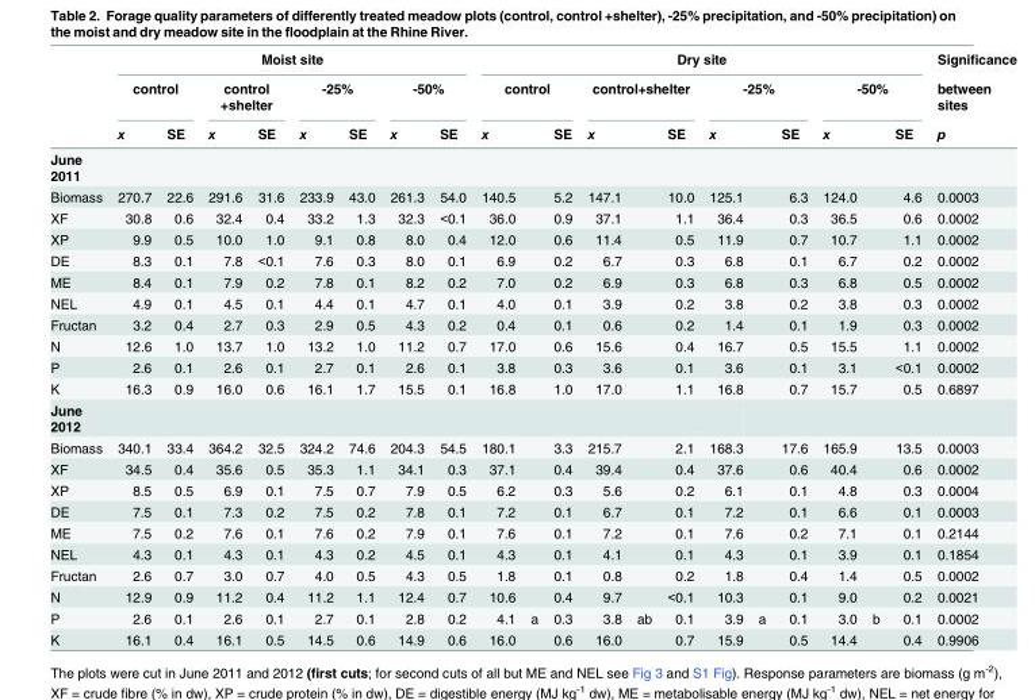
<table><thead><tr><td rowspan="3"></td><td colspan="8">Moist site</td><td colspan="12">Dry site</td><td rowspan="3">Significance between sites p</td></tr><tr><td colspan="2">control</td><td colspan="2">control +shelter</td><td colspan="2">-25%</td><td colspan="2">-50%</td><td colspan="3">control</td><td colspan="3">control+shelter</td><td colspan="3">-25%</td><td colspan="3">-50%</td></tr><tr><td>x</td><td>SE</td><td>x</td><td>SE</td><td>x</td><td>SE</td><td>x</td><td>SE</td><td>x</td><td></td><td>SE</td><td>x</td><td></td><td>SE</td><td>x</td><td></td><td>SE</td><td>x</td><td></td><td>SE</td></tr></thead><tbody><tr><td colspan="22">June 2011</td></tr><tr><td>Biomass</td><td>270.7</td><td>22.6</td><td>291.6</td><td>31.6</td><td>233.9</td><td>43.0</td><td>261.3</td><td>54.0</td><td>140.5</td><td></td><td>5.2</td><td>147.1</td><td></td><td>10.0</td><td>125.1</td><td></td><td>6.3</td><td>124.0</td><td></td><td>4.6</td><td>0.0003</td></tr><tr><td>XF</td><td>30.8</td><td>0.6</td><td>32.4</td><td>0.4</td><td>33.2</td><td>1.3</td><td>32.3</td><td>&lt;0.1</td><td>36.0</td><td></td><td>0.9</td><td>37.1</td><td></td><td>1.1</td><td>36.4</td><td></td><td>0.3</td><td>36.5</td><td></td><td>0.6</td><td>0.0002</td></tr><tr><td>XP</td><td>9.9</td><td>0.5</td><td>10.0</td><td>1.0</td><td>9.1</td><td>0.8</td><td>8.0</td><td>0.4</td><td>12.0</td><td></td><td>0.6</td><td>11.4</td><td></td><td>0.5</td><td>11.9</td><td></td><td>0.7</td><td>10.7</td><td></td><td>1.1</td><td>0.0002</td></tr><tr><td>DE</td><td>8.3</td><td>0.1</td><td>7.8</td><td>&lt;0.1</td><td>7.6</td><td>0.3</td><td>8.0</td><td>0.1</td><td>6.9</td><td></td><td>0.2</td><td>6.7</td><td></td><td>0.3</td><td>6.8</td><td></td><td>0.1</td><td>6.7</td><td></td><td>0.2</td><td>0.0002</td></tr><tr><td>ME</td><td>8.4</td><td>0.1</td><td>7.9</td><td>0.2</td><td>7.8</td><td>0.1</td><td>8.2</td><td>0.2</td><td>7.0</td><td></td><td>0.2</td><td>6.9</td><td></td><td>0.3</td><td>6.8</td><td></td><td>0.3</td><td>6.8</td><td></td><td>0.5</td><td>0.0002</td></tr><tr><td>NEL</td><td>4.9</td><td>0.1</td><td>4.5</td><td>0.1</td><td>4.4</td><td>0.1</td><td>4.7</td><td>0.1</td><td>4.0</td><td></td><td>0.1</td><td>3.9</td><td></td><td>0.2</td><td>3.8</td><td></td><td>0.2</td><td>3.8</td><td></td><td>0.3</td><td>0.0002</td></tr><tr><td>Fructan</td><td>3.2</td><td>0.4</td><td>2.7</td><td>0.3</td><td>2.9</td><td>0.5</td><td>4.3</td><td>0.2</td><td>0.4</td><td></td><td>0.1</td><td>0.6</td><td></td><td>0.2</td><td>1.4</td><td></td><td>0.1</td><td>1.9</td><td></td><td>0.3</td><td>0.0002</td></tr><tr><td>N</td><td>12.6</td><td>1.0</td><td>13.7</td><td>1.0</td><td>13.2</td><td>1.0</td><td>11.2</td><td>0.7</td><td>17.0</td><td></td><td>0.6</td><td>15.6</td><td></td><td>0.4</td><td>16.7</td><td></td><td>0.5</td><td>15.5</td><td></td><td>1.1</td><td>0.0002</td></tr><tr><td>P</td><td>2.6</td><td>0.1</td><td>2.6</td><td>0.1</td><td>2.7</td><td>0.1</td><td>2.6</td><td>0.1</td><td>3.8</td><td></td><td>0.3</td><td>3.6</td><td></td><td>0.1</td><td>3.6</td><td></td><td>0.1</td><td>3.1</td><td></td><td>&lt;0.1</td><td>0.0002</td></tr><tr><td>K</td><td>16.3</td><td>0.9</td><td>16.0</td><td>0.6</td><td>16.1</td><td>1.7</td><td>15.5</td><td>0.1</td><td>16.8</td><td></td><td>1.0</td><td>17.0</td><td></td><td>1.1</td><td>16.8</td><td></td><td>0.7</td><td>15.7</td><td></td><td>0.5</td><td>0.6897</td></tr><tr><td colspan="22">June 2012</td></tr><tr><td>Biomass</td><td>340.1</td><td>33.4</td><td>364.2</td><td>32.5</td><td>324.2</td><td>74.6</td><td>204.3</td><td>54.5</td><td>180.1</td><td></td><td>3.3</td><td>215.7</td><td></td><td>2.1</td><td>168.3</td><td></td><td>17.6</td><td>165.9</td><td></td><td>13.5</td><td>0.0003</td></tr><tr><td>XF</td><td>34.5</td><td>0.4</td><td>35.6</td><td>0.5</td><td>35.3</td><td>1.1</td><td>34.1</td><td>0.3</td><td>37.1</td><td></td><td>0.4</td><td>39.4</td><td></td><td>0.4</td><td>37.6</td><td></td><td>0.6</td><td>40.4</td><td></td><td>0.6</td><td>0.0002</td></tr><tr><td>XP</td><td>8.5</td><td>0.5</td><td>6.9</td><td>0.1</td><td>7.5</td><td>0.7</td><td>7.9</td><td>0.5</td><td>6.2</td><td></td><td>0.3</td><td>5.6</td><td></td><td>0.2</td><td>6.1</td><td></td><td>0.1</td><td>4.8</td><td></td><td>0.3</td><td>0.0004</td></tr><tr><td>DE</td><td>7.5</td><td>0.1</td><td>7.3</td><td>0.2</td><td>7.5</td><td>0.2</td><td>7.8</td><td>0.1</td><td>7.2</td><td></td><td>0.1</td><td>6.7</td><td></td><td>0.1</td><td>7.2</td><td></td><td>0.1</td><td>6.6</td><td></td><td>0.1</td><td>0.0003</td></tr><tr><td>ME</td><td>7.5</td><td>0.2</td><td>7.6</td><td>0.1</td><td>7.6</td><td>0.2</td><td>7.9</td><td>0.1</td><td>7.6</td><td></td><td>0.1</td><td>7.2</td><td></td><td>0.1</td><td>7.6</td><td></td><td>0.2</td><td>7.1</td><td></td><td>0.1</td><td>0.2144</td></tr><tr><td>NEL</td><td>4.3</td><td>0.1</td><td>4.3</td><td>0.1</td><td>4.3</td><td>0.2</td><td>4.5</td><td>0.1</td><td>4.3</td><td></td><td>0.1</td><td>4.1</td><td></td><td>0.1</td><td>4.3</td><td></td><td>0.1</td><td>3.9</td><td></td><td>0.1</td><td>0.1854</td></tr><tr><td>Fructan</td><td>2.6</td><td>0.7</td><td>3.0</td><td>0.7</td><td>4.0</td><td>0.5</td><td>4.3</td><td>0.5</td><td>1.8</td><td></td><td>0.1</td><td>0.8</td><td></td><td>0.2</td><td>1.8</td><td></td><td>0.4</td><td>1.4</td><td></td><td>0.5</td><td>0.0002</td></tr><tr><td>N</td><td>12.9</td><td>0.9</td><td>11.2</td><td>0.4</td><td>11.2</td><td>1.1</td><td>12.4</td><td>0.7</td><td>10.6</td><td></td><td>0.4</td><td>9.7</td><td></td><td>&lt;0.1</td><td>10.3</td><td></td><td>0.1</td><td>9.0</td><td></td><td>0.2</td><td>0.0021</td></tr><tr><td>P</td><td>2.6</td><td>0.1</td><td>2.6</td><td>0.1</td><td>2.7</td><td>0.1</td><td>2.8</td><td>0.2</td><td>4.1</td><td>a</td><td>0.3</td><td>3.8</td><td>ab</td><td>0.1</td><td>3.9</td><td>a</td><td>0.1</td><td>3.0</td><td>b</td><td>0.1</td><td>0.0002</td></tr><tr><td>K</td><td>16.1</td><td>0.4</td><td>16.1</td><td>0.5</td><td>14.5</td><td>0.6</td><td>14.9</td><td>0.6</td><td>16.0</td><td></td><td>0.6</td><td>16.0</td><td></td><td>0.7</td><td>15.9</td><td></td><td>0.5</td><td>14.4</td><td></td><td>0.4</td><td>0.9906</td></tr></tbody></table>